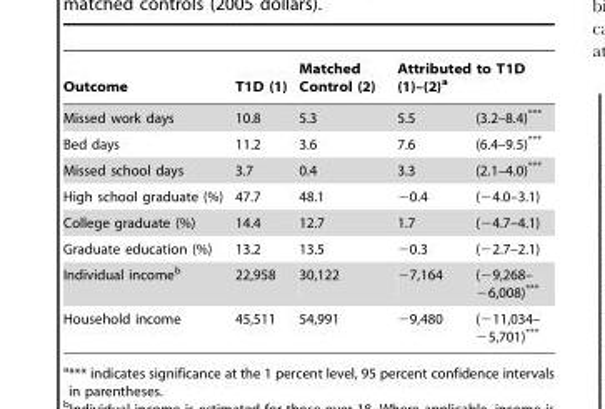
<table><thead><tr><td rowspan="2">Outcome Missed work days</td><td rowspan="2">T1D (1) 10.8</td><td rowspan="2">Matched Control (2) 5.3</td><td colspan="2">Attributed to T1D (1)–(2)<sup>a</sup></td></tr><tr><td>5.5</td><td>(3.2–8.4)***</td></tr></thead><tbody><tr><td>Bed days</td><td>11.2</td><td>3.6</td><td>7.6</td><td>(6.4–9.5)***</td></tr><tr><td>Missed school days</td><td>3.7</td><td>0.4</td><td>3.3</td><td>(2.1–4.0)***</td></tr><tr><td>High school graduate (%)</td><td>47.7</td><td>48.1</td><td>−0.4</td><td>(−4.0–3.1)</td></tr><tr><td>College graduate (%)</td><td>14.4</td><td>12.7</td><td>1.7</td><td>(−4.7–4.1)</td></tr><tr><td>Graduate education (%)</td><td>13.2</td><td>13.5</td><td>−0.3</td><td>(−2.7–2.1)</td></tr><tr><td>Individual income<sup>b</sup></td><td>22,958</td><td>30,122</td><td>−7,164</td><td>(−9,268– −6,008)***</td></tr><tr><td>Household income</td><td>45,511</td><td>54,991</td><td>−9,480</td><td>(−11,034– −5,701)***</td></tr></tbody></table>